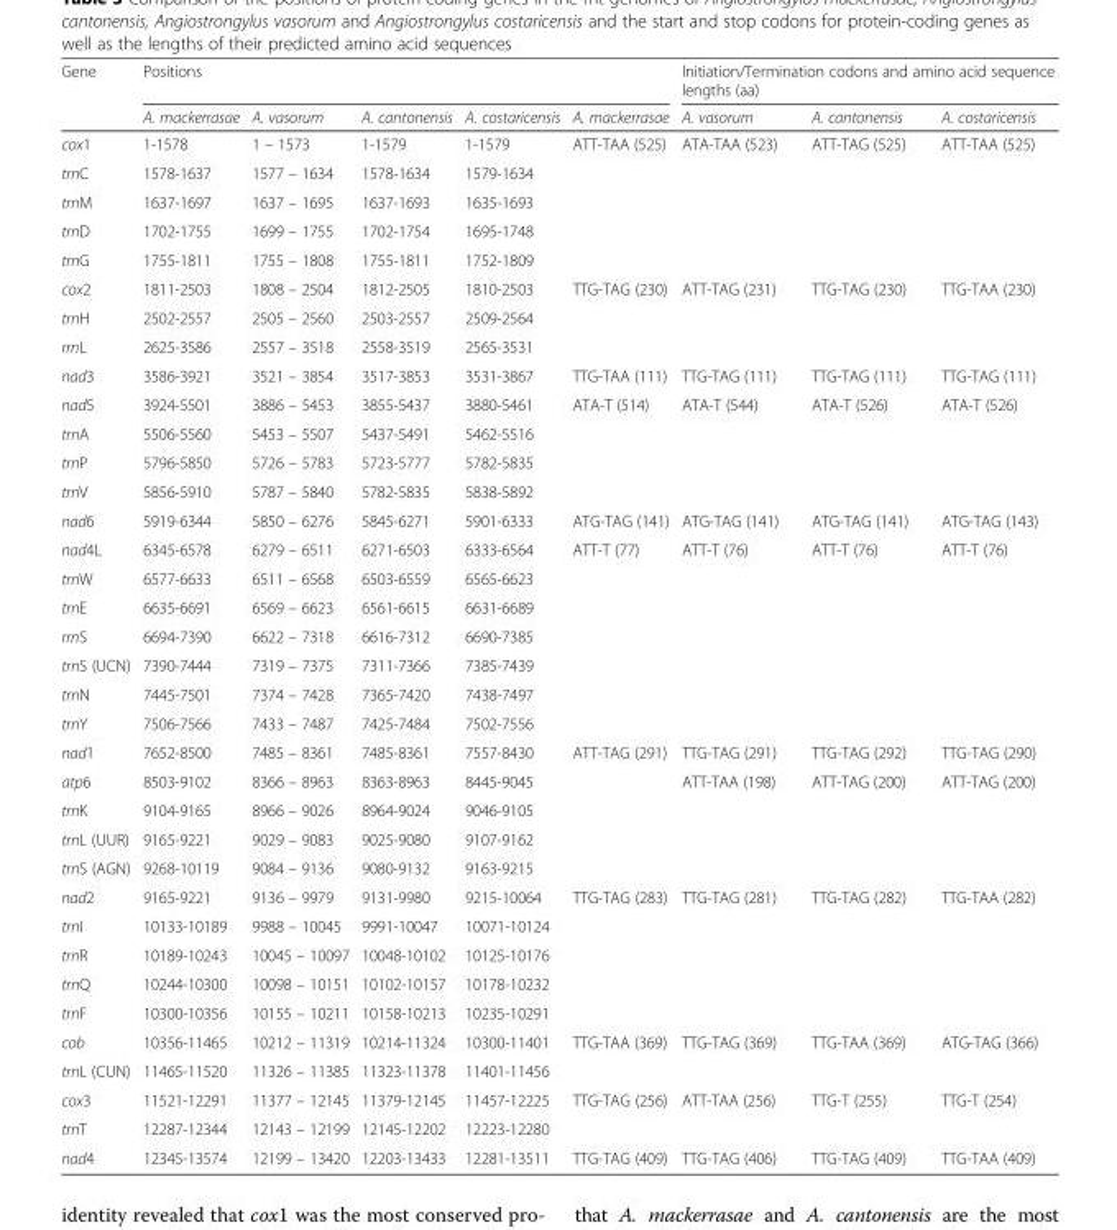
<table><thead><tr><td rowspan="2">Gene</td><td colspan="5">Positions</td><td colspan="3">Initiation/Termination codons and amino acid sequence lengths (aa)</td></tr><tr><td>A. mackerrasae</td><td>A. vasorum</td><td>A. cantonensis</td><td>A. costaricensis</td><td>A. mackerrasae</td><td>A. vasorum</td><td>A. cantonensis</td><td>A. costaricensis</td></tr></thead><tbody><tr><td>cox1</td><td>1-1578</td><td>1 – 1573</td><td>1-1579</td><td>1-1579</td><td>ATT-TAA (525)</td><td>ATA-TAA (523)</td><td>ATT-TAG (525)</td><td>ATT-TAA (525)</td></tr><tr><td>trnC</td><td>1578-1637</td><td>1577 – 1634</td><td>1578-1634</td><td>1579-1634</td><td></td><td></td><td></td><td></td></tr><tr><td>trnM</td><td>1637-1697</td><td>1637 – 1695</td><td>1637-1693</td><td>1635-1693</td><td></td><td></td><td></td><td></td></tr><tr><td>trnD</td><td>1702-1755</td><td>1699 – 1755</td><td>1702-1754</td><td>1695-1748</td><td></td><td></td><td></td><td></td></tr><tr><td>trnG</td><td>1755-1811</td><td>1755 – 1808</td><td>1755-1811</td><td>1752-1809</td><td></td><td></td><td></td><td></td></tr><tr><td>cox2</td><td>1811-2503</td><td>1808 – 2504</td><td>1812-2505</td><td>1810-2503</td><td>TTG-TAG (230)</td><td>ATT-TAG (231)</td><td>TTG-TAG (230)</td><td>TTG-TAA (230)</td></tr><tr><td>trnH</td><td>2502-2557</td><td>2505 – 2560</td><td>2503-2557</td><td>2509-2564</td><td></td><td></td><td></td><td></td></tr><tr><td>rrnL</td><td>2625-3586</td><td>2557 – 3518</td><td>2558-3519</td><td>2565-3531</td><td></td><td></td><td></td><td></td></tr><tr><td>nad3</td><td>3586-3921</td><td>3521 – 3854</td><td>3517-3853</td><td>3531-3867</td><td>TTG-TAA (111)</td><td>TTG-TAG (111)</td><td>TTG-TAG (111)</td><td>TTG-TAG (111)</td></tr><tr><td>nad5</td><td>3924-5501</td><td>3886 – 5453</td><td>3855-5437</td><td>3880-5461</td><td>ATA-T (514)</td><td>ATA-T (544)</td><td>ATA-T (526)</td><td>ATA-T (526)</td></tr><tr><td>trnA</td><td>5506-5560</td><td>5453 – 5507</td><td>5437-5491</td><td>5462-5516</td><td></td><td></td><td></td><td></td></tr><tr><td>trnP</td><td>5796-5850</td><td>5726 – 5783</td><td>5723-5777</td><td>5782-5835</td><td></td><td></td><td></td><td></td></tr><tr><td>trnV</td><td>5856-5910</td><td>5787 – 5840</td><td>5782-5835</td><td>5838-5892</td><td></td><td></td><td></td><td></td></tr><tr><td>nad6</td><td>5919-6344</td><td>5850 – 6276</td><td>5845-6271</td><td>5901-6333</td><td>ATG-TAG (141)</td><td>ATG-TAG (141)</td><td>ATG-TAG (141)</td><td>ATG-TAG (143)</td></tr><tr><td>nad4L</td><td>6345-6578</td><td>6279 – 6511</td><td>6271-6503</td><td>6333-6564</td><td>ATT-T (77)</td><td>ATT-T (76)</td><td>ATT-T (76)</td><td>ATT-T (76)</td></tr><tr><td>trnW</td><td>6577-6633</td><td>6511 – 6568</td><td>6503-6559</td><td>6565-6623</td><td></td><td></td><td></td><td></td></tr><tr><td>trnE</td><td>6635-6691</td><td>6569 – 6623</td><td>6561-6615</td><td>6631-6689</td><td></td><td></td><td></td><td></td></tr><tr><td>rrnS</td><td>6694-7390</td><td>6622 – 7318</td><td>6616-7312</td><td>6690-7385</td><td></td><td></td><td></td><td></td></tr><tr><td>trnS (UCN)</td><td>7390-7444</td><td>7319 – 7375</td><td>7311-7366</td><td>7385-7439</td><td></td><td></td><td></td><td></td></tr><tr><td>trnN</td><td>7445-7501</td><td>7374 – 7428</td><td>7365-7420</td><td>7438-7497</td><td></td><td></td><td></td><td></td></tr><tr><td>trnY</td><td>7506-7566</td><td>7433 – 7487</td><td>7425-7484</td><td>7502-7556</td><td></td><td></td><td></td><td></td></tr><tr><td>nad1</td><td>7652-8500</td><td>7485 – 8361</td><td>7485-8361</td><td>7557-8430</td><td>ATT-TAG (291)</td><td>TTG-TAG (291)</td><td>TTG-TAG (292)</td><td>TTG-TAG (290)</td></tr><tr><td>atp6</td><td>8503-9102</td><td>8366 – 8963</td><td>8363-8963</td><td>8445-9045</td><td></td><td>ATT-TAA (198)</td><td>ATT-TAG (200)</td><td>ATT-TAG (200)</td></tr><tr><td>trnK</td><td>9104-9165</td><td>8966 – 9026</td><td>8964-9024</td><td>9046-9105</td><td></td><td></td><td></td><td></td></tr><tr><td>trnL (UUR)</td><td>9165-9221</td><td>9029 – 9083</td><td>9025-9080</td><td>9107-9162</td><td></td><td></td><td></td><td></td></tr><tr><td>trnS (AGN)</td><td>9268-10119</td><td>9084 – 9136</td><td>9080-9132</td><td>9163-9215</td><td></td><td></td><td></td><td></td></tr><tr><td>nad2</td><td>9165-9221</td><td>9136 – 9979</td><td>9131-9980</td><td>9215-10064</td><td>TTG-TAG (283)</td><td>TTG-TAG (281)</td><td>TTG-TAG (282)</td><td>TTG-TAA (282)</td></tr><tr><td>trnI</td><td>10133-10189</td><td>9988 – 10045</td><td>9991-10047</td><td>10071-10124</td><td></td><td></td><td></td><td></td></tr><tr><td>trnR</td><td>10189-10243</td><td>10045 – 10097</td><td>10048-10102</td><td>10125-10176</td><td></td><td></td><td></td><td></td></tr><tr><td>trnQ</td><td>10244-10300</td><td>10098 – 10151</td><td>10102-10157</td><td>10178-10232</td><td></td><td></td><td></td><td></td></tr><tr><td>trnF</td><td>10300-10356</td><td>10155 – 10211</td><td>10158-10213</td><td>10235-10291</td><td></td><td></td><td></td><td></td></tr><tr><td>cob</td><td>10356-11465</td><td>10212 – 11319</td><td>10214-11324</td><td>10300-11401</td><td>TTG-TAA (369)</td><td>TTG-TAG (369)</td><td>TTG-TAA (369)</td><td>ATG-TAG (366)</td></tr><tr><td>trnL (CUN)</td><td>11465-11520</td><td>11326 – 11385</td><td>11323-11378</td><td>11401-11456</td><td></td><td></td><td></td><td></td></tr><tr><td>cox3</td><td>11521-12291</td><td>11377 – 12145</td><td>11379-12145</td><td>11457-12225</td><td>TTG-TAG (256)</td><td>ATT-TAA (256)</td><td>TTG-T (255)</td><td>TTG-T (254)</td></tr><tr><td>trnT</td><td>12287-12344</td><td>12143 – 12199</td><td>12145-12202</td><td>12223-12280</td><td></td><td></td><td></td><td></td></tr><tr><td>nad4</td><td>12345-13574</td><td>12199 – 13420</td><td>12203-13433</td><td>12281-13511</td><td>TTG-TAG (409)</td><td>TTG-TAG (406)</td><td>TTG-TAG (409)</td><td>TTG-TAA (409)</td></tr></tbody></table>